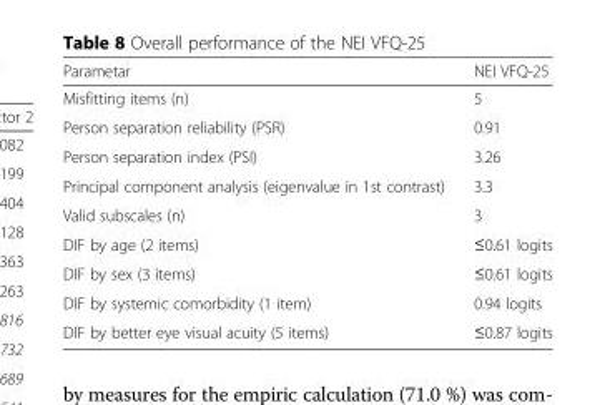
<table><thead><tr><td>Parametar</td><td>NEI VFQ-25</td></tr></thead><tbody><tr><td>Misfitting items (n)</td><td>5</td></tr><tr><td>Person separation reliability (PSR)</td><td>0.91</td></tr><tr><td>Person separation index (PSI)</td><td>3.26</td></tr><tr><td>Principal component analysis (eigenvalue in 1st contrast)</td><td>3.3</td></tr><tr><td>Valid subscales (n)</td><td>3</td></tr><tr><td>DIF by age (2 items)</td><td>≤0.61 logits</td></tr><tr><td>DIF by sex (3 items)</td><td>≤0.61 logits</td></tr><tr><td>DIF by systemic comorbidity (1 item)</td><td>0.94 logits</td></tr><tr><td>DIF by better eye visual acuity (5 items)</td><td>≤0.87 logits</td></tr></tbody></table>